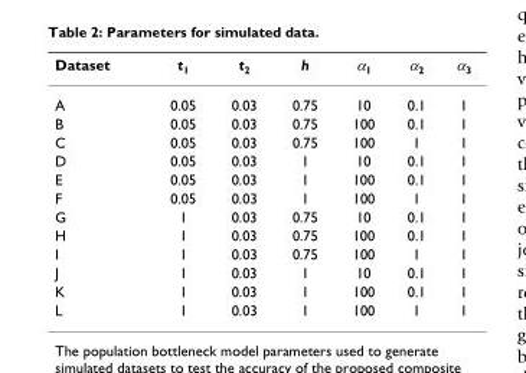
<table><thead><tr><td>Dataset</td><td>t<sub>1</sub></td><td>t<sub>2</sub></td><td>h</td><td>α<sub>1</sub></td><td>α<sub>2</sub></td><td>α<sub>3</sub></td></tr></thead><tbody><tr><td>A</td><td>0.05</td><td>0.03</td><td>0.75</td><td>10</td><td>0.1</td><td>1</td></tr><tr><td>B</td><td>0.05</td><td>0.03</td><td>0.75</td><td>100</td><td>0.1</td><td>1</td></tr><tr><td>C</td><td>0.05</td><td>0.03</td><td>0.75</td><td>100</td><td>1</td><td>1</td></tr><tr><td>D</td><td>0.05</td><td>0.03</td><td>1</td><td>10</td><td>0.1</td><td>1</td></tr><tr><td>E</td><td>0.05</td><td>0.03</td><td>1</td><td>100</td><td>0.1</td><td>1</td></tr><tr><td>F</td><td>0.05</td><td>0.03</td><td>1</td><td>100</td><td>1</td><td>1</td></tr><tr><td>G</td><td>1</td><td>0.03</td><td>0.75</td><td>10</td><td>0.1</td><td>1</td></tr><tr><td>H</td><td>1</td><td>0.03</td><td>0.75</td><td>100</td><td>0.1</td><td>1</td></tr><tr><td>I</td><td>1</td><td>0.03</td><td>0.75</td><td>100</td><td>1</td><td>1</td></tr><tr><td>J</td><td>1</td><td>0.03</td><td>1</td><td>10</td><td>0.1</td><td>1</td></tr><tr><td>K</td><td>1</td><td>0.03</td><td>1</td><td>100</td><td>0.1</td><td>1</td></tr><tr><td>L</td><td>1</td><td>0.03</td><td>1</td><td>100</td><td>1</td><td>1</td></tr></tbody></table>